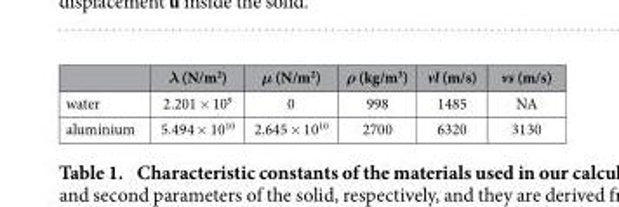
<table><thead><tr><td></td><td>λ (N/m<sup>2</sup>)</td><td>μ (N/m<sup>2</sup>)</td><td>ρ (kg/m<sup>3</sup>)</td><td>vl (m/s)</td><td>vs (m/s)</td></tr></thead><tbody><tr><td>water</td><td>2.201 × 10<sup>9</sup></td><td>0</td><td>998</td><td>1485</td><td>NA</td></tr><tr><td>aluminium</td><td>5.494 × 10<sup>10</sup></td><td>2.645 × 10<sup>10</sup></td><td>2700</td><td>6320</td><td>3130</td></tr></tbody></table>